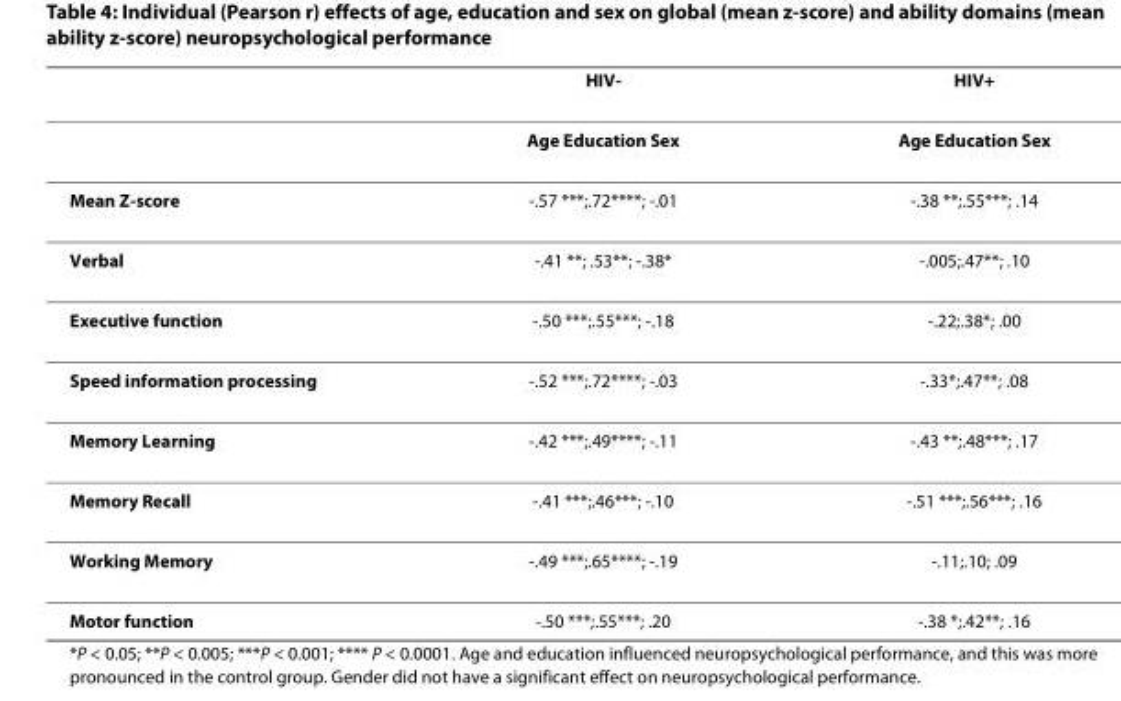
<table><thead><tr><td></td><td>HIV-</td><td>HIV+</td></tr></thead><tbody><tr><td></td><td>Age Education Sex</td><td>Age Education Sex</td></tr><tr><td>Mean Z-score</td><td>-.57 ***;.72****; -.01</td><td>-.38 **;.55***; .14</td></tr><tr><td>Verbal</td><td>-.41 **; .53**; -.38*</td><td>-.005;.47**; .10</td></tr><tr><td>Executive function</td><td>-.50 ***;.55***; -.18</td><td>-.22;.38*; .00</td></tr><tr><td>Speed information processing</td><td>-.52 ***;.72****; -.03</td><td>-.33*;.47**; .08</td></tr><tr><td>Memory Learning</td><td>-.42 ***;.49****; -.11</td><td>-.43 **;.48***; .17</td></tr><tr><td>Memory Recall</td><td>-.41 ***;.46***; -.10</td><td>-.51 ***;.56***; .16</td></tr><tr><td>Working Memory</td><td>-.49 ***;.65****; -.19</td><td>-.11;.10; .09</td></tr><tr><td>Motor function</td><td>-.50 ***;.55***; .20</td><td>-.38 *;.42**; .16</td></tr></tbody></table>